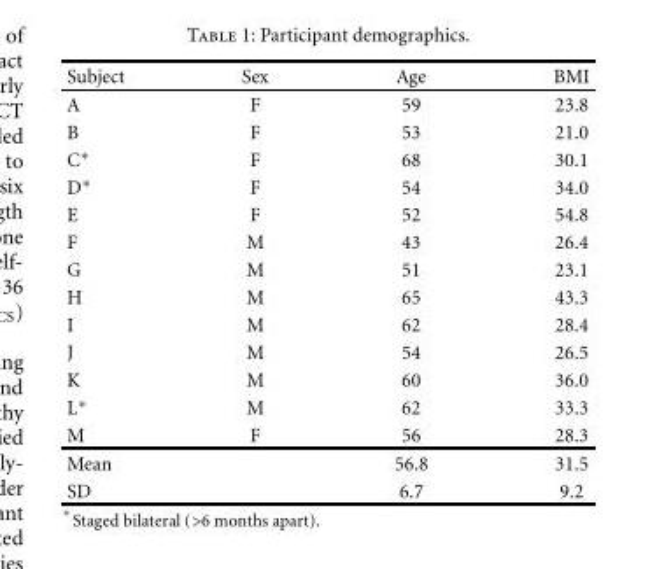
<table><thead><tr><td>Subject</td><td>Sex</td><td>Age</td><td>BMI</td></tr></thead><tbody><tr><td>A</td><td>F</td><td>59</td><td>23.8</td></tr><tr><td>B</td><td>F</td><td>53</td><td>21.0</td></tr><tr><td>C∗</td><td>F</td><td>68</td><td>30.1</td></tr><tr><td>D∗</td><td>F</td><td>54</td><td>34.0</td></tr><tr><td>E</td><td>F</td><td>52</td><td>54.8</td></tr><tr><td>F</td><td>M</td><td>43</td><td>26.4</td></tr><tr><td>G</td><td>M</td><td>51</td><td>23.1</td></tr><tr><td>H</td><td>M</td><td>65</td><td>43.3</td></tr><tr><td>I</td><td>M</td><td>62</td><td>28.4</td></tr><tr><td>J</td><td>M</td><td>54</td><td>26.5</td></tr><tr><td>K</td><td>M</td><td>60</td><td>36.0</td></tr><tr><td>L∗</td><td>M</td><td>62</td><td>33.3</td></tr><tr><td>M</td><td>F</td><td>56</td><td>28.3</td></tr><tr><td>Mean</td><td></td><td>56.8</td><td>31.5</td></tr><tr><td>SD</td><td></td><td>6.7</td><td>9.2</td></tr></tbody></table>